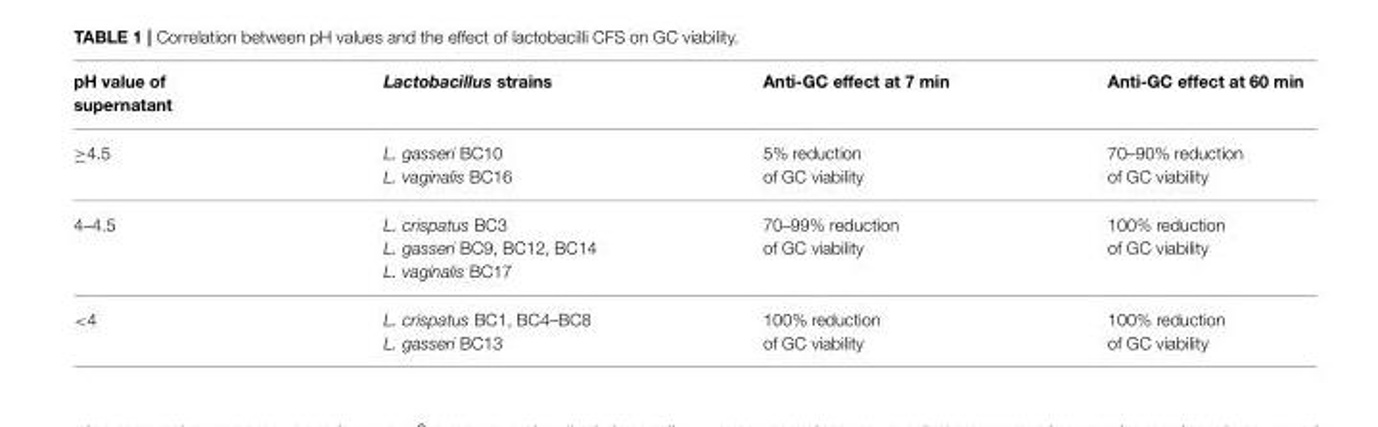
<table><thead><tr><td>pH value of supernatant</td><td>Lactobacillus strains</td><td>Anti-GC effect at 7 min</td><td>Anti-GC effect at 60 min</td></tr></thead><tbody><tr><td>≥4.5</td><td>L. gasseri BC10 L. vaginalis BC16</td><td>5% reduction of GC viability</td><td>70–90% reduction of GC viability</td></tr><tr><td>4–4.5</td><td>L. crispatus BC3 L. gasseri BC9, BC12, BC14 L. vaginalis BC17</td><td>70–99% reduction of GC viability</td><td>100% reduction of GC viability</td></tr><tr><td>&lt;4</td><td>L. crispatus BC1, BC4–BC8 L. gasseri BC13</td><td>100% reduction of GC viability</td><td>100% reduction of GC viability</td></tr></tbody></table>